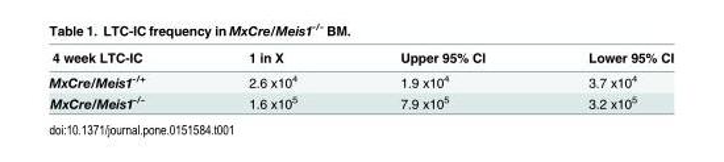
<table><thead><tr><td>4 week LTC-IC</td><td>1 in X</td><td>Upper 95% CI</td><td>Lower 95% CI</td></tr></thead><tbody><tr><td>MxCre/Meis1<sup>-/+</sup></td><td>2.6 x10<sup>4</sup></td><td>1.9 x10<sup>4</sup></td><td>3.7 x10<sup>4</sup></td></tr><tr><td>MxCre/Meis1<sup>-/-</sup></td><td>1.6 x10<sup>5</sup></td><td>7.9 x10<sup>5</sup></td><td>3.2 x10<sup>5</sup></td></tr></tbody></table>